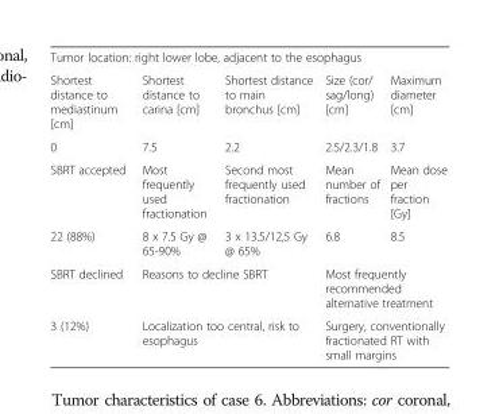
<table><tbody><tr><td colspan="5">Tumor location: right lower lobe, adjacent to the esophagus</td></tr><tr><td>Shortest distance to mediastinum [cm]</td><td>Shortest distance to carina [cm]</td><td>Shortest distance to main bronchus [cm]</td><td>Size (cor/ sag/long) [cm]</td><td>Maximum diameter [cm]</td></tr><tr><td>0</td><td>7.5</td><td>2.2</td><td>2.5/2.3/1.8</td><td>3.7</td></tr><tr><td>SBRT accepted</td><td>Most frequently used fractionation</td><td>Second most frequently used fractionation</td><td>Mean number of fractions</td><td>Mean dose per fraction [Gy]</td></tr><tr><td>22 (88%)</td><td>8 x 7.5 Gy @ 65-90%</td><td>3 x 13.5/12,5 Gy @ 65%</td><td>6.8</td><td>8.5</td></tr><tr><td>SBRT declined</td><td colspan="2">Reasons to decline SBRT</td><td colspan="2">Most frequently recommended alternative treatment</td></tr><tr><td>3 (12%)</td><td colspan="2">Localization too central, risk to esophagus</td><td colspan="2">Surgery, conventionally fractionated RT with small margins</td></tr></tbody></table>